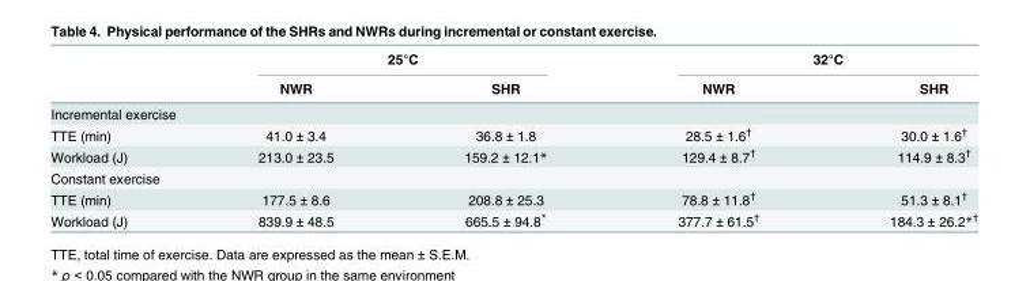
<table><thead><tr><td rowspan="2"></td><td colspan="2">25°C</td><td colspan="2">32°C</td></tr><tr><td>NWR</td><td>SHR</td><td>NWR</td><td>SHR</td></tr></thead><tbody><tr><td colspan="5">Incremental exercise</td></tr><tr><td>TTE (min)</td><td>41.0 ± 3.4</td><td>36.8 ± 1.8</td><td>28.5 ± 1.6<sup>†</sup></td><td>30.0 ± 1.6<sup>†</sup></td></tr><tr><td>Workload (J)</td><td>213.0 ± 23.5</td><td>159.2 ± 12.1*</td><td>129.4 ± 8.7<sup>†</sup></td><td>114.9 ± 8.3<sup>†</sup></td></tr><tr><td colspan="5">Constant exercise</td></tr><tr><td>TTE (min)</td><td>177.5 ± 8.6</td><td>208.8 ± 25.3</td><td>78.8 ± 11.8<sup>†</sup></td><td>51.3 ± 8.1<sup>†</sup></td></tr><tr><td>Workload (J)</td><td>839.9 ± 48.5</td><td>665.5 ± 94.8*</td><td>377.7 ± 61.5<sup>†</sup></td><td>184.3 ± 26.2*<sup>†</sup></td></tr></tbody></table>